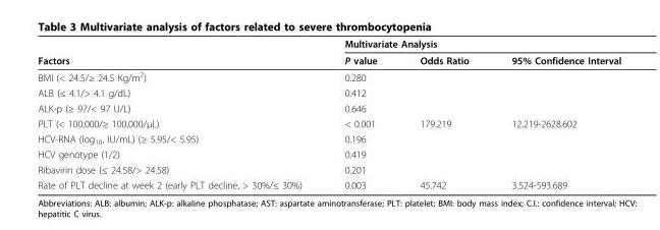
<table><thead><tr><td rowspan="2">Factors</td><td colspan="3">Multivariate Analysis</td></tr><tr><td>P value</td><td>Odds Ratio</td><td>95% Confidence Interval</td></tr></thead><tbody><tr><td>BMI (&lt; 24.5/≥ 24.5 Kg/m<sup>2</sup>)</td><td>0.280</td><td></td><td></td></tr><tr><td>ALB (≤ 4.1/&gt; 4.1 g/dL)</td><td>0.412</td><td></td><td></td></tr><tr><td>ALK-p (≥ 97/&lt; 97 U/L)</td><td>0.646</td><td></td><td></td></tr><tr><td>PLT (&lt; 100,000/≥ 100,000/μL)</td><td>&lt; 0.001</td><td>179.219</td><td>12.219-2628.602</td></tr><tr><td>HCV-RNA (log<sub>10</sub>, IU/mL) (≥ 5.95/&lt; 5.95)</td><td>0.196</td><td></td><td></td></tr><tr><td>HCV genotype (1/2)</td><td>0.419</td><td></td><td></td></tr><tr><td>Ribavirin dose (≤ 24.58/&gt; 24.58)</td><td>0.201</td><td></td><td></td></tr><tr><td>Rate of PLT decline at week 2 (early PLT decline, &gt; 30%/≤ 30%)</td><td>0.003</td><td>45.742</td><td>3.524-593.689</td></tr></tbody></table>